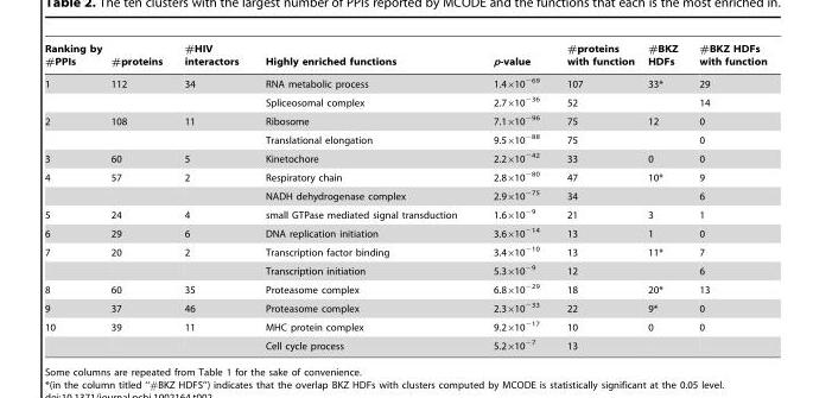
<table><thead><tr><td>Ranking by #PPIs</td><td>#proteins</td><td>#HIV interactors</td><td>Highly enriched functions</td><td>p-value</td><td>#proteins with function</td><td>#BKZ HDFs</td><td>#BKZ HDFs with function</td></tr></thead><tbody><tr><td rowspan="2">1</td><td>112</td><td>34</td><td>RNA metabolic process</td><td>1.4×10<sup>−69</sup></td><td>107</td><td>33*</td><td>29</td></tr><tr><td></td><td></td><td>Spliceosomal complex</td><td>2.7×10<sup>−36</sup></td><td>52</td><td></td><td>14</td></tr><tr><td rowspan="2">2</td><td>108</td><td>11</td><td>Ribosome</td><td>7.1×10<sup>−96</sup></td><td>75</td><td>12</td><td>0</td></tr><tr><td></td><td></td><td>Translational elongation</td><td>9.5×10<sup>−88</sup></td><td>75</td><td></td><td>0</td></tr><tr><td>3</td><td>60</td><td>5</td><td>Kinetochore</td><td>2.2×10<sup>−42</sup></td><td>33</td><td>0</td><td>0</td></tr><tr><td rowspan="2">4</td><td>57</td><td>2</td><td>Respiratory chain</td><td>2.8×10<sup>−80</sup></td><td>47</td><td>10*</td><td>9</td></tr><tr><td></td><td></td><td>NADH dehydrogenase complex</td><td>2.9×10<sup>−75</sup></td><td>34</td><td></td><td>6</td></tr><tr><td>5</td><td>24</td><td>4</td><td>small GTPase mediated signal transduction</td><td>1.6×10<sup>−9</sup></td><td>21</td><td>3</td><td>1</td></tr><tr><td>6</td><td>29</td><td>6</td><td>DNA replication initiation</td><td>3.6×10<sup>−14</sup></td><td>13</td><td>1</td><td>0</td></tr><tr><td rowspan="2">7</td><td>20</td><td>2</td><td>Transcription factor binding</td><td>3.4×10<sup>−10</sup></td><td>13</td><td>11*</td><td>7</td></tr><tr><td></td><td></td><td>Transcription initiation</td><td>5.3×10<sup>−9</sup></td><td>12</td><td></td><td>6</td></tr><tr><td>8</td><td>60</td><td>35</td><td>Proteasome complex</td><td>6.8×10<sup>−29</sup></td><td>18</td><td>20*</td><td>13</td></tr><tr><td>9</td><td>37</td><td>46</td><td>Proteasome complex</td><td>2.3×10<sup>−33</sup></td><td>22</td><td>9*</td><td>0</td></tr><tr><td rowspan="2">10</td><td>39</td><td>11</td><td>MHC protein complex</td><td>9.2×10<sup>−17</sup></td><td>10</td><td>0</td><td>0</td></tr><tr><td></td><td></td><td>Cell cycle process</td><td>5.2×10<sup>−7</sup></td><td>13</td><td></td><td></td></tr></tbody></table>